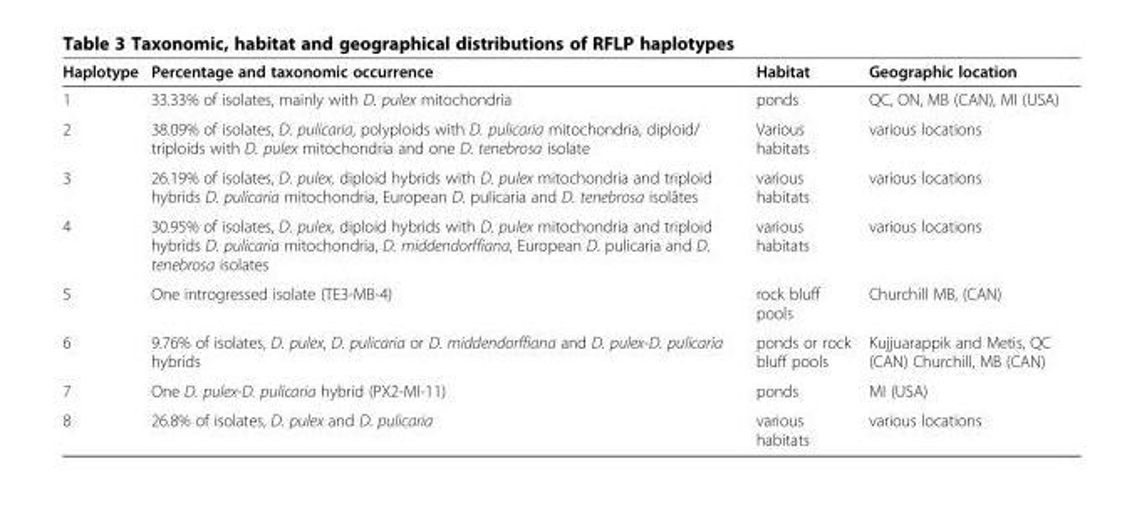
<table><thead><tr><td>Haplotype</td><td>Percentage and taxonomic occurrence</td><td>Habitat</td><td>Geographic location</td></tr></thead><tbody><tr><td>1</td><td>33.33% of isolates, mainly with D. pulex mitochondria</td><td>ponds</td><td>QC, ON, MB (CAN), MI (USA)</td></tr><tr><td>2</td><td>38.09% of isolates, D. pulicaria, polyploids with D. pulicaria mitochondria, diploid/ triploids with D. pulex mitochondria and one D. tenebrosa isolate</td><td>Various habitats</td><td>various locations</td></tr><tr><td>3</td><td>26.19% of isolates, D. pulex, diploid hybrids with D. pulex mitochondria and triploid hybrids D. pulicaria mitochondria, European D. pulicaria and D. tenebrosa isolâtes</td><td>various habitats</td><td>various locations</td></tr><tr><td>4</td><td>30.95% of isolates, D. pulex, diploid hybrids with D. pulex mitochondria and triploid hybrids D. pulicaria mitochondria, D. middendorffiana, European D. pulicaria and D. tenebrosa isolates</td><td>various habitats</td><td>various locations</td></tr><tr><td>5</td><td>One introgressed isolate (TE3-MB-4)</td><td>rock bluff pools</td><td>Churchill MB, (CAN)</td></tr><tr><td>6</td><td>9.76% of isolates, D. pulex, D. pulicaria or D. middendorffiana and D. pulex-D. pulicaria hybrids</td><td>ponds or rock bluff pools</td><td>Kujjuarappik and Metis, QC (CAN) Churchill, MB (CAN)</td></tr><tr><td>7</td><td>One D. pulex-D. pulicaria hybrid (PX2-MI-11)</td><td>ponds</td><td>MI (USA)</td></tr><tr><td>8</td><td>26.8% of isolates, D. pulex and D. pulicaria</td><td>various habitats</td><td>various locations</td></tr></tbody></table>